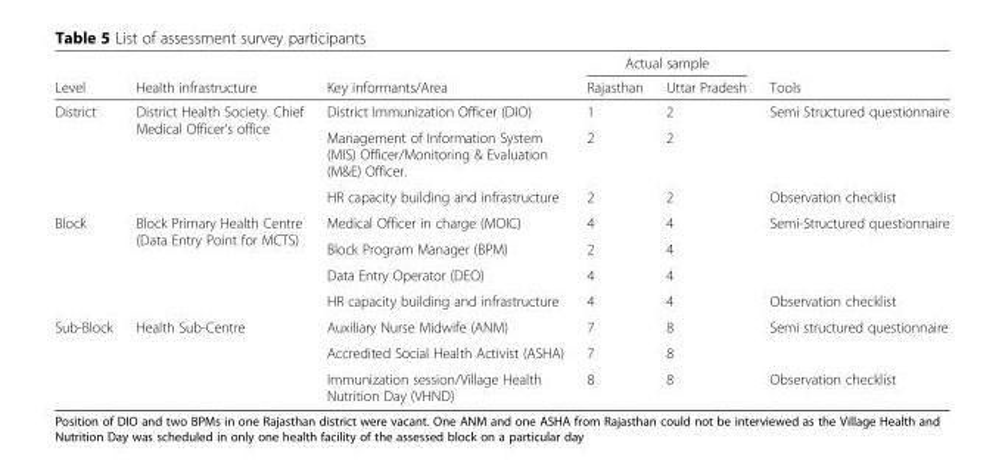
<table><thead><tr><td rowspan="2">Level</td><td rowspan="2">Health infrastructure</td><td rowspan="2">Key informants/Area</td><td colspan="2">Actual sample</td><td rowspan="2">Tools</td></tr><tr><td>Rajasthan</td><td>Uttar Pradesh</td></tr></thead><tbody><tr><td rowspan="3">District</td><td rowspan="3">District Health Society. Chief Medical Officer’s office</td><td>District Immunization Officer (DIO)</td><td>1</td><td>2</td><td rowspan="2">Semi Structured questionnaire</td></tr><tr><td>Management of Information System (MIS) Officer/Monitoring &amp; Evaluation (M&amp;E) Officer.</td><td>2</td><td>2</td></tr><tr><td>HR capacity building and infrastructure</td><td>2</td><td>2</td><td>Observation checklist</td></tr><tr><td rowspan="4">Block</td><td rowspan="4">Block Primary Health Centre (Data Entry Point for MCTS)</td><td>Medical Officer in charge (MOIC)</td><td>4</td><td>4</td><td rowspan="3">Semi-Structured questionnaire</td></tr><tr><td>Block Program Manager (BPM)</td><td>2</td><td>4</td></tr><tr><td>Data Entry Operator (DEO)</td><td>4</td><td>4</td></tr><tr><td>HR capacity building and infrastructure</td><td>4</td><td>4</td><td>Observation checklist</td></tr><tr><td rowspan="3">Sub-Block</td><td rowspan="3">Health Sub-Centre</td><td>Auxiliary Nurse Midwife (ANM)</td><td>7</td><td>8</td><td rowspan="2">Semi structured questionnaire</td></tr><tr><td>Accredited Social Health Activist (ASHA)</td><td>7</td><td>8</td></tr><tr><td>Immunization session/Village Health Nutrition Day (VHND)</td><td>8</td><td>8</td><td>Observation checklist</td></tr></tbody></table>